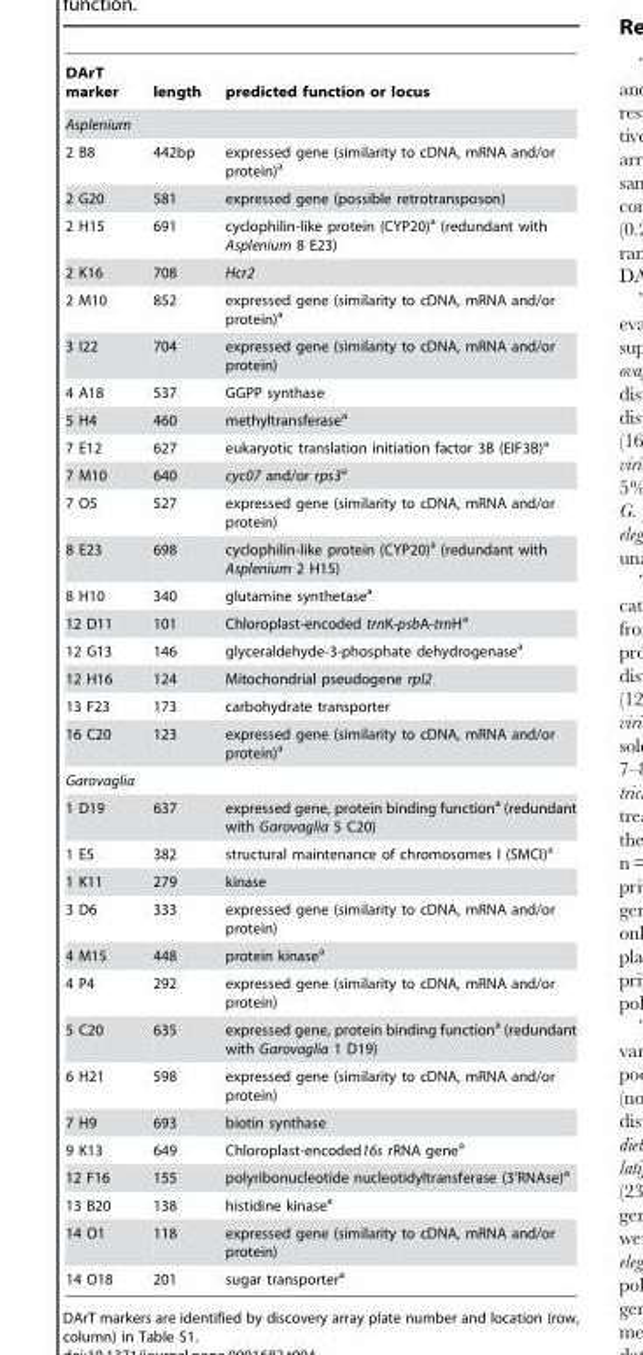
<table><thead><tr><td>DArT marker</td><td>length</td><td>predicted function or locus</td></tr></thead><tbody><tr><td colspan="3">Asplenium</td></tr><tr><td>2 B8</td><td>442bp</td><td>expressed gene (similarity to cDNA, mRNA and/or protein)<sup>a</sup></td></tr><tr><td>2 G20</td><td>581</td><td>expressed gene (possible retrotransposon)</td></tr><tr><td>2 H15</td><td>691</td><td>cyclophilin-like protein (CYP20)<sup>a</sup> (redundant with Asplenium 8 E23)</td></tr><tr><td>2 K16</td><td>708</td><td>Hcr2</td></tr><tr><td>2 M10</td><td>852</td><td>expressed gene (similarity to cDNA, mRNA and/or protein)<sup>a</sup></td></tr><tr><td>3 I22</td><td>704</td><td>expressed gene (similarity to cDNA, mRNA and/or protein)</td></tr><tr><td>4 A18</td><td>537</td><td>GGPP synthase</td></tr><tr><td>5 H4</td><td>460</td><td>methyltransferase<sup>a</sup></td></tr><tr><td>7 E12</td><td>627</td><td>eukaryotic translation initiation factor 3B (EIF3B)<sup>a</sup></td></tr><tr><td>7 M10</td><td>640</td><td>cyc07 and/or rps3<sup>a</sup></td></tr><tr><td>7 O5</td><td>527</td><td>expressed gene (similarity to cDNA, mRNA and/or protein)</td></tr><tr><td>8 E23</td><td>698</td><td>cyclophilin-like protein (CYP20)<sup>a</sup> (redundant with Asplenium 2 H15)</td></tr><tr><td>8 H10</td><td>340</td><td>glutamine synthetase<sup>a</sup></td></tr><tr><td>12 D11</td><td>101</td><td>Chloroplast-encoded trnK-psbA-trnH<sup>a</sup></td></tr><tr><td>12 G13</td><td>146</td><td>glyceraldehyde-3-phosphate dehydrogenase<sup>a</sup></td></tr><tr><td>12 H16</td><td>124</td><td>Mitochondrial pseudogene rpl2</td></tr><tr><td>13 F23</td><td>173</td><td>carbohydrate transporter</td></tr><tr><td>16 C20</td><td>123</td><td>expressed gene (similarity to cDNA, mRNA and/or protein)<sup>a</sup></td></tr><tr><td colspan="3">Garovaglia</td></tr><tr><td>1 D19</td><td>637</td><td>expressed gene, protein binding function<sup>a</sup> (redundant with Garovaglia 5 C20)</td></tr><tr><td>1 E5</td><td>382</td><td>structural maintenance of chromosomes I (SMCI)<sup>a</sup></td></tr><tr><td>1 K11</td><td>279</td><td>kinase</td></tr><tr><td>3 D6</td><td>333</td><td>expressed gene (similarity to cDNA, mRNA and/or protein)</td></tr><tr><td>4 M15</td><td>448</td><td>protein kinase<sup>a</sup></td></tr><tr><td>4 P4</td><td>292</td><td>expressed gene (similarity to cDNA, mRNA and/or protein)</td></tr><tr><td>5 C20</td><td>635</td><td>expressed gene, protein binding function<sup>a</sup> (redundant with Garovaglia 1 D19)</td></tr><tr><td>6 H21</td><td>598</td><td>expressed gene (similarity to cDNA, mRNA and/or protein)</td></tr><tr><td>7 H9</td><td>693</td><td>biotin synthase</td></tr><tr><td>9 K13</td><td>649</td><td>Chloroplast-encoded16s rRNA gene<sup>a</sup></td></tr><tr><td>12 F16</td><td>155</td><td>polyribonucleotide nucleotidyltransferase (3’RNAse)<sup>a</sup></td></tr><tr><td>13 B20</td><td>138</td><td>histidine kinase<sup>a</sup></td></tr><tr><td>14 O1</td><td>118</td><td>expressed gene (similarity to cDNA, mRNA and/or protein)</td></tr><tr><td>14 O18</td><td>201</td><td>sugar transporter<sup>a</sup></td></tr></tbody></table>